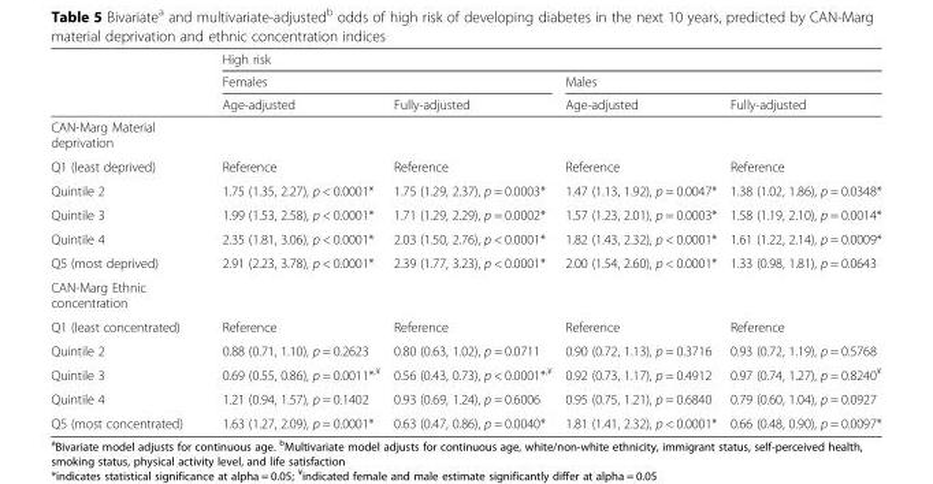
<table><thead><tr><td rowspan="3"></td><td colspan="4">High risk</td></tr><tr><td colspan="2">Females</td><td colspan="2">Males</td></tr><tr><td>Age-adjusted</td><td>Fully-adjusted</td><td>Age-adjusted</td><td>Fully-adjusted</td></tr></thead><tbody><tr><td colspan="5">CAN-Marg Material deprivation</td></tr><tr><td>Q1 (least deprived)</td><td>Reference</td><td>Reference</td><td>Reference</td><td>Reference</td></tr><tr><td>Quintile 2</td><td>1.75 (1.35, 2.27), p &lt; 0.0001*</td><td>1.75 (1.29, 2.37), p = 0.0003*</td><td>1.47 (1.13, 1.92), p = 0.0047*</td><td>1.38 (1.02, 1.86), p = 0.0348*</td></tr><tr><td>Quintile 3</td><td>1.99 (1.53, 2.58), p &lt; 0.0001*</td><td>1.71 (1.29, 2.29), p = 0.0002*</td><td>1.57 (1.23, 2.01), p = 0.0003*</td><td>1.58 (1.19, 2.10), p = 0.0014*</td></tr><tr><td>Quintile 4</td><td>2.35 (1.81, 3.06), p &lt; 0.0001*</td><td>2.03 (1.50, 2.76), p &lt; 0.0001*</td><td>1.82 (1.43, 2.32), p &lt; 0.0001*</td><td>1.61 (1.22, 2.14), p = 0.0009*</td></tr><tr><td>Q5 (most deprived)</td><td>2.91 (2.23, 3.78), p &lt; 0.0001*</td><td>2.39 (1.77, 3.23), p &lt; 0.0001*</td><td>2.00 (1.54, 2.60), p &lt; 0.0001*</td><td>1.33 (0.98, 1.81), p = 0.0643</td></tr><tr><td colspan="5">CAN-Marg Ethnic concentration</td></tr><tr><td>Q1 (least concentrated)</td><td>Reference</td><td>Reference</td><td>Reference</td><td>Reference</td></tr><tr><td>Quintile 2</td><td>0.88 (0.71, 1.10), p = 0.2623</td><td>0.80 (0.63, 1.02), p = 0.0711</td><td>0.90 (0.72, 1.13), p = 0.3716</td><td>0.93 (0.72, 1.19), p = 0.5768</td></tr><tr><td>Quintile 3</td><td>0.69 (0.55, 0.86), p = 0.0011*<sup>,¥</sup></td><td>0.56 (0.43, 0.73), p &lt; 0.0001*<sup>,¥</sup></td><td>0.92 (0.73, 1.17), p = 0.4912</td><td>0.97 (0.74, 1.27), p = 0.8240<sup>¥</sup></td></tr><tr><td>Quintile 4</td><td>1.21 (0.94, 1.57), p = 0.1402</td><td>0.93 (0.69, 1.24), p = 0.6006</td><td>0.95 (0.75, 1.21), p = 0.6840</td><td>0.79 (0.60, 1.04), p = 0.0927</td></tr><tr><td>Q5 (most concentrated)</td><td>1.63 (1.27, 2.09), p = 0.0001*</td><td>0.63 (0.47, 0.86), p = 0.0040*</td><td>1.81 (1.41, 2.32), p &lt; 0.0001*</td><td>0.66 (0.48, 0.90), p = 0.0097*</td></tr></tbody></table>